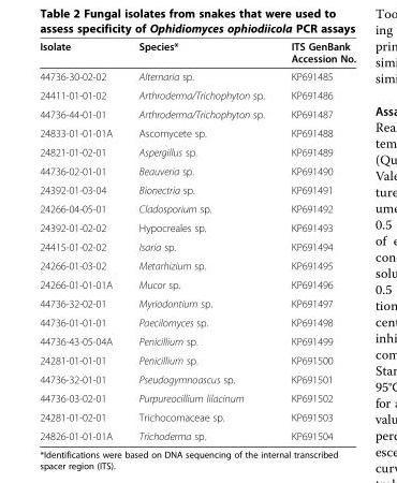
<table><thead><tr><td>Isolate</td><td>Species*</td><td>ITS GenBank Accession No.</td></tr></thead><tbody><tr><td>44736-30-02-02</td><td>Alternaria sp.</td><td>KP691485</td></tr><tr><td>24411-01-01-02</td><td>Arthroderma/Trichophyton sp.</td><td>KP691486</td></tr><tr><td>44736-44-01-01</td><td>Arthroderma/Trichophyton sp.</td><td>KP691487</td></tr><tr><td>24833-01-01-01A</td><td>Ascomycete sp.</td><td>KP691488</td></tr><tr><td>24821-01-02-01</td><td>Aspergillus sp.</td><td>KP691489</td></tr><tr><td>44736-02-01-01</td><td>Beauveria sp.</td><td>KP691490</td></tr><tr><td>24392-01-03-04</td><td>Bionectria sp.</td><td>KP691491</td></tr><tr><td>24266-04-05-01</td><td>Cladosporium sp.</td><td>KP691492</td></tr><tr><td>24392-01-02-02</td><td>Hypocreales sp.</td><td>KP691493</td></tr><tr><td>24415-01-02-02</td><td>Isaria sp.</td><td>KP691494</td></tr><tr><td>24266-01-03-02</td><td>Metarhizium sp.</td><td>KP691495</td></tr><tr><td>24266-01-01-01A</td><td>Mucor sp.</td><td>KP691496</td></tr><tr><td>44736-32-02-01</td><td>Myriodontium sp.</td><td>KP691497</td></tr><tr><td>44736-01-01-01</td><td>Paecilomyces sp.</td><td>KP691498</td></tr><tr><td>44736-43-05-04A</td><td>Penicillium sp.</td><td>KP691499</td></tr><tr><td>24281-01-01-01</td><td>Penicillium sp.</td><td>KP691500</td></tr><tr><td>44736-32-01-01</td><td>Pseudogymnoascus sp.</td><td>KP691501</td></tr><tr><td>44736-03-02-01</td><td>Purpureocillium lilacinum</td><td>KP691502</td></tr><tr><td>24281-01-02-01</td><td>Trichocomaceae sp.</td><td>KP691503</td></tr><tr><td>24826-01-01-01A</td><td>Trichoderma sp.</td><td>KP691504</td></tr></tbody></table>